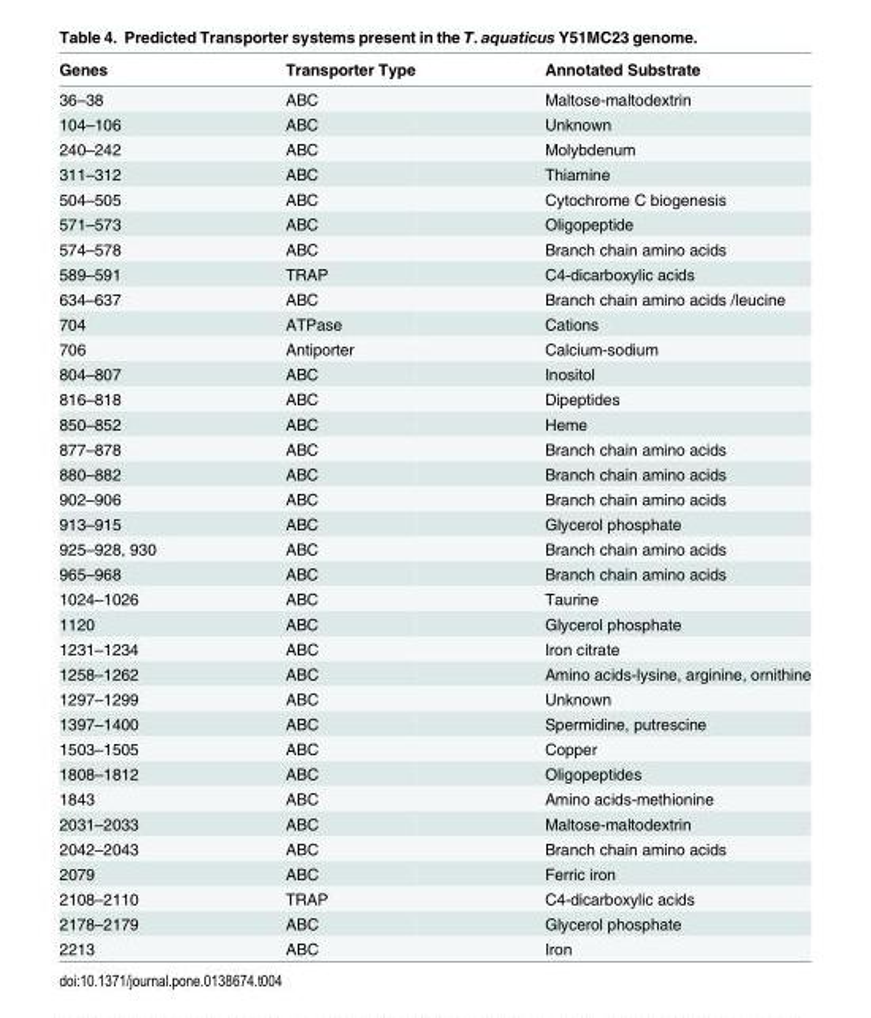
<table><thead><tr><td>Genes</td><td>Transporter Type</td><td>Annotated Substrate</td></tr></thead><tbody><tr><td>36–38</td><td>ABC</td><td>Maltose-maltodextrin</td></tr><tr><td>104–106</td><td>ABC</td><td>Unknown</td></tr><tr><td>240–242</td><td>ABC</td><td>Molybdenum</td></tr><tr><td>311–312</td><td>ABC</td><td>Thiamine</td></tr><tr><td>504–505</td><td>ABC</td><td>Cytochrome C biogenesis</td></tr><tr><td>571–573</td><td>ABC</td><td>Oligopeptide</td></tr><tr><td>574–578</td><td>ABC</td><td>Branch chain amino acids</td></tr><tr><td>589–591</td><td>TRAP</td><td>C4-dicarboxylic acids</td></tr><tr><td>634–637</td><td>ABC</td><td>Branch chain amino acids /leucine</td></tr><tr><td>704</td><td>ATPase</td><td>Cations</td></tr><tr><td>706</td><td>Antiporter</td><td>Calcium-sodium</td></tr><tr><td>804–807</td><td>ABC</td><td>Inositol</td></tr><tr><td>816–818</td><td>ABC</td><td>Dipeptides</td></tr><tr><td>850–852</td><td>ABC</td><td>Heme</td></tr><tr><td>877–878</td><td>ABC</td><td>Branch chain amino acids</td></tr><tr><td>880–882</td><td>ABC</td><td>Branch chain amino acids</td></tr><tr><td>902–906</td><td>ABC</td><td>Branch chain amino acids</td></tr><tr><td>913–915</td><td>ABC</td><td>Glycerol phosphate</td></tr><tr><td>925–928, 930</td><td>ABC</td><td>Branch chain amino acids</td></tr><tr><td>965–968</td><td>ABC</td><td>Branch chain amino acids</td></tr><tr><td>1024–1026</td><td>ABC</td><td>Taurine</td></tr><tr><td>1120</td><td>ABC</td><td>Glycerol phosphate</td></tr><tr><td>1231–1234</td><td>ABC</td><td>Iron citrate</td></tr><tr><td>1258–1262</td><td>ABC</td><td>Amino acids-lysine, arginine, ornithine</td></tr><tr><td>1297–1299</td><td>ABC</td><td>Unknown</td></tr><tr><td>1397–1400</td><td>ABC</td><td>Spermidine, putrescine</td></tr><tr><td>1503–1505</td><td>ABC</td><td>Copper</td></tr><tr><td>1808–1812</td><td>ABC</td><td>Oligopeptides</td></tr><tr><td>1843</td><td>ABC</td><td>Amino acids-methionine</td></tr><tr><td>2031–2033</td><td>ABC</td><td>Maltose-maltodextrin</td></tr><tr><td>2042–2043</td><td>ABC</td><td>Branch chain amino acids</td></tr><tr><td>2079</td><td>ABC</td><td>Ferric iron</td></tr><tr><td>2108–2110</td><td>TRAP</td><td>C4-dicarboxylic acids</td></tr><tr><td>2178–2179</td><td>ABC</td><td>Glycerol phosphate</td></tr><tr><td>2213</td><td>ABC</td><td>Iron</td></tr></tbody></table>